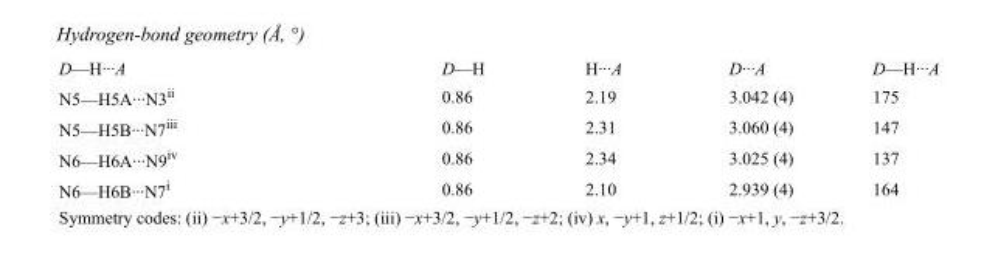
<table><tbody><tr><td>D—H···A</td><td>D—H</td><td>H···A</td><td>D···A</td><td>D—H···A</td></tr><tr><td>N5—H5A···N3<sup>ii</sup></td><td>0.86</td><td>2.19</td><td>3.042 (4)</td><td>175</td></tr><tr><td>N5—H5B···N7<sup>iii</sup></td><td>0.86</td><td>2.31</td><td>3.060 (4)</td><td>147</td></tr><tr><td>N6—H6A···N9<sup>iv</sup></td><td>0.86</td><td>2.34</td><td>3.025 (4)</td><td>137</td></tr><tr><td>N6—H6B···N7<sup>i</sup></td><td>0.86</td><td>2.10</td><td>2.939 (4)</td><td>164</td></tr></tbody></table>